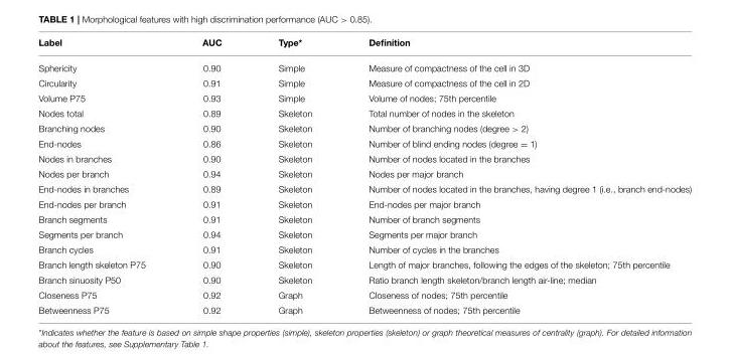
<table><thead><tr><td>Label</td><td>AUC</td><td>Type*</td><td>Definition</td></tr></thead><tbody><tr><td>Sphericity</td><td>0.90</td><td>Simple</td><td>Measure of compactness of the cell in 3D</td></tr><tr><td>Circularity</td><td>0.91</td><td>Simple</td><td>Measure of compactness of the cell in 2D</td></tr><tr><td>Volume P75</td><td>0.93</td><td>Simple</td><td>Volume of nodes; 75th percentile</td></tr><tr><td>Nodes total</td><td>0.89</td><td>Skeleton</td><td>Total number of nodes in the skeleton</td></tr><tr><td>Branching nodes</td><td>0.90</td><td>Skeleton</td><td>Number of branching nodes (degree &gt; 2)</td></tr><tr><td>End-nodes</td><td>0.86</td><td>Skeleton</td><td>Number of blind ending nodes (degree = 1)</td></tr><tr><td>Nodes in branches</td><td>0.90</td><td>Skeleton</td><td>Number of nodes located in the branches</td></tr><tr><td>Nodes per branch</td><td>0.94</td><td>Skeleton</td><td>Nodes per major branch</td></tr><tr><td>End-nodes in branches</td><td>0.89</td><td>Skeleton</td><td>Number of nodes located in the branches, having degree 1 (i.e., branch end-nodes)</td></tr><tr><td>End-nodes per branch</td><td>0.91</td><td>Skeleton</td><td>End-nodes per major branch</td></tr><tr><td>Branch segments</td><td>0.91</td><td>Skeleton</td><td>Number of branch segments</td></tr><tr><td>Segments per branch</td><td>0.94</td><td>Skeleton</td><td>Segments per major branch</td></tr><tr><td>Branch cycles</td><td>0.91</td><td>Skeleton</td><td>Number of cycles in the branches</td></tr><tr><td>Branch length skeleton P75</td><td>0.90</td><td>Skeleton</td><td>Length of major branches, following the edges of the skeleton; 75th percentile</td></tr><tr><td>Branch sinuosity P50</td><td>0.90</td><td>Skeleton</td><td>Ratio branch length skeleton/branch length air-line; median</td></tr><tr><td>Closeness P75</td><td>0.92</td><td>Graph</td><td>Closeness of nodes; 75th percentile</td></tr><tr><td>Betweenness P75</td><td>0.92</td><td>Graph</td><td>Betweenness of nodes; 75th percentile</td></tr></tbody></table>